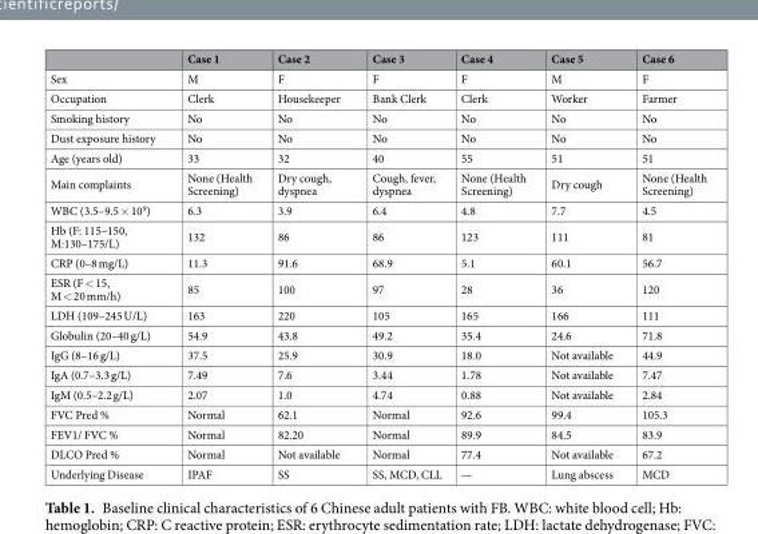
<table><thead><tr><td></td><td>Case 1</td><td>Case 2</td><td>Case 3</td><td>Case 4</td><td>Case 5</td><td>Case 6</td></tr></thead><tbody><tr><td>Sex</td><td>M</td><td>F</td><td>F</td><td>F</td><td>M</td><td>F</td></tr><tr><td>Occupation</td><td>Clerk</td><td>Housekeeper</td><td>Bank Clerk</td><td>Clerk</td><td>Worker</td><td>Farmer</td></tr><tr><td>Smoking history</td><td>No</td><td>No</td><td>No</td><td>No</td><td>No</td><td>No</td></tr><tr><td>Dust exposure history</td><td>No</td><td>No</td><td>No</td><td>No</td><td>No</td><td>No</td></tr><tr><td>Age (years old)</td><td>33</td><td>32</td><td>40</td><td>55</td><td>51</td><td>51</td></tr><tr><td>Main complaints</td><td>None (Health Screening)</td><td>Dry cough, dyspnea</td><td>Cough, fever, dyspnea</td><td>None (Health Screening)</td><td>Dry cough</td><td>None (Health Screening)</td></tr><tr><td>WBC (3.5–9.5 × 10<sup>9</sup>)</td><td>6.3</td><td>3.9</td><td>6.4</td><td>4.8</td><td>7.7</td><td>4.5</td></tr><tr><td>Hb (F: 115–150, M:130–175/L)</td><td>132</td><td>86</td><td>86</td><td>123</td><td>111</td><td>81</td></tr><tr><td>CRP (0–8 mg/L)</td><td>11.3</td><td>91.6</td><td>68.9</td><td>5.1</td><td>60.1</td><td>56.7</td></tr><tr><td>ESR (F &lt; 15, M &lt; 20 mm/h)</td><td>85</td><td>100</td><td>97</td><td>28</td><td>36</td><td>120</td></tr><tr><td>LDH (109–245 U/L)</td><td>163</td><td>220</td><td>105</td><td>165</td><td>166</td><td>111</td></tr><tr><td>Globulin (20–40 g/L)</td><td>54.9</td><td>43.8</td><td>49.2</td><td>35.4</td><td>24.6</td><td>71.8</td></tr><tr><td>IgG (8–16 g/L)</td><td>37.5</td><td>25.9</td><td>30.9</td><td>18.0</td><td>Not available</td><td>44.9</td></tr><tr><td>IgA (0.7–3.3 g/L)</td><td>7.49</td><td>7.6</td><td>3.44</td><td>1.78</td><td>Not available</td><td>7.47</td></tr><tr><td>IgM (0.5–2.2 g/L)</td><td>2.07</td><td>1.0</td><td>4.74</td><td>0.88</td><td>Not available</td><td>2.84</td></tr><tr><td>FVC Pred %</td><td>Normal</td><td>62.1</td><td>Normal</td><td>92.6</td><td>99.4</td><td>105.3</td></tr><tr><td>FEV1/ FVC %</td><td>Normal</td><td>82.20</td><td>Normal</td><td>89.9</td><td>84.5</td><td>83.9</td></tr><tr><td>DLCO Pred %</td><td>Normal</td><td>Not available</td><td>Normal</td><td>77.4</td><td>Not available</td><td>67.2</td></tr><tr><td>Underlying Disease</td><td>IPAF</td><td>SS</td><td>SS, MCD, CLL</td><td>—</td><td>Lung abscess</td><td>MCD</td></tr></tbody></table>